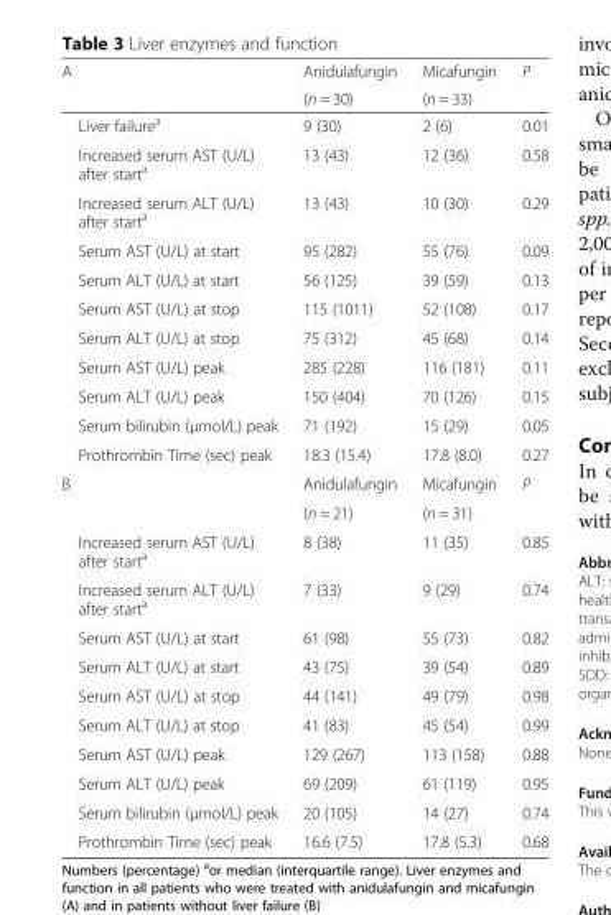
<table><thead><tr><td rowspan="2">A</td><td rowspan="2">Anidulafungin (n = 30)</td><td rowspan="2">Micafungin (n = 33)</td><td rowspan="2">P</td></tr><tr></tr></thead><tbody><tr><td>Liver failure<sup>a</sup></td><td>9 (30)</td><td>2 (6)</td><td>0.01</td></tr><tr><td>Increased serum AST (U/L) after start<sup>a</sup></td><td>13 (43)</td><td>12 (36)</td><td>0.58</td></tr><tr><td>Increased serum ALT (U/L) after start<sup>a</sup></td><td>13 (43)</td><td>10 (30)</td><td>0.29</td></tr><tr><td>Serum AST (U/L) at start</td><td>95 (282)</td><td>55 (76)</td><td>0.09</td></tr><tr><td>Serum ALT (U/L) at start</td><td>56 (125)</td><td>39 (59)</td><td>0.13</td></tr><tr><td>Serum AST (U/L) at stop</td><td>115 (1011)</td><td>52 (108)</td><td>0.17</td></tr><tr><td>Serum ALT (U/L) at stop</td><td>75 (312)</td><td>45 (68)</td><td>0.14</td></tr><tr><td>Serum AST (U/L) peak</td><td>285 (228)</td><td>116 (181)</td><td>0.11</td></tr><tr><td>Serum ALT (U/L) peak</td><td>150 (404)</td><td>70 (126)</td><td>0.15</td></tr><tr><td>Serum bilirubin (μmol/L) peak</td><td>71 (192)</td><td>15 (29)</td><td>0.05</td></tr><tr><td>Prothrombin Time (sec) peak</td><td>18.3 (15.4)</td><td>17.8 (8.0)</td><td>0.27</td></tr><tr><td rowspan="2">B</td><td>Anidulafungin</td><td>Micafungin</td><td rowspan="2">P</td></tr><tr><td>(n = 21)</td><td>(n = 31)</td></tr><tr><td>Increased serum AST (U/L) after start<sup>a</sup></td><td>8 (38)</td><td>11 (35)</td><td>0.85</td></tr><tr><td>Increased serum ALT (U/L) after start<sup>a</sup></td><td>7 (33)</td><td>9 (29)</td><td>0.74</td></tr><tr><td>Serum AST (U/L) at start</td><td>61 (98)</td><td>55 (73)</td><td>0.82</td></tr><tr><td>Serum ALT (U/L) at start</td><td>43 (75)</td><td>39 (54)</td><td>0.89</td></tr><tr><td>Serum AST (U/L) at stop</td><td>44 (141)</td><td>49 (79)</td><td>0.98</td></tr><tr><td>Serum ALT (U/L) at stop</td><td>41 (83)</td><td>45 (54)</td><td>0.99</td></tr><tr><td>Serum AST (U/L) peak</td><td>129 (267)</td><td>113 (158)</td><td>0.88</td></tr><tr><td>Serum ALT (U/L) peak</td><td>69 (209)</td><td>61 (119)</td><td>0.95</td></tr><tr><td>Serum bilirubin (μmol/L) peak</td><td>20 (105)</td><td>14 (27)</td><td>0.74</td></tr><tr><td>Prothrombin Time (sec) peak</td><td>16.6 (7.5)</td><td>17.8 (5.3)</td><td>0.68</td></tr></tbody></table>